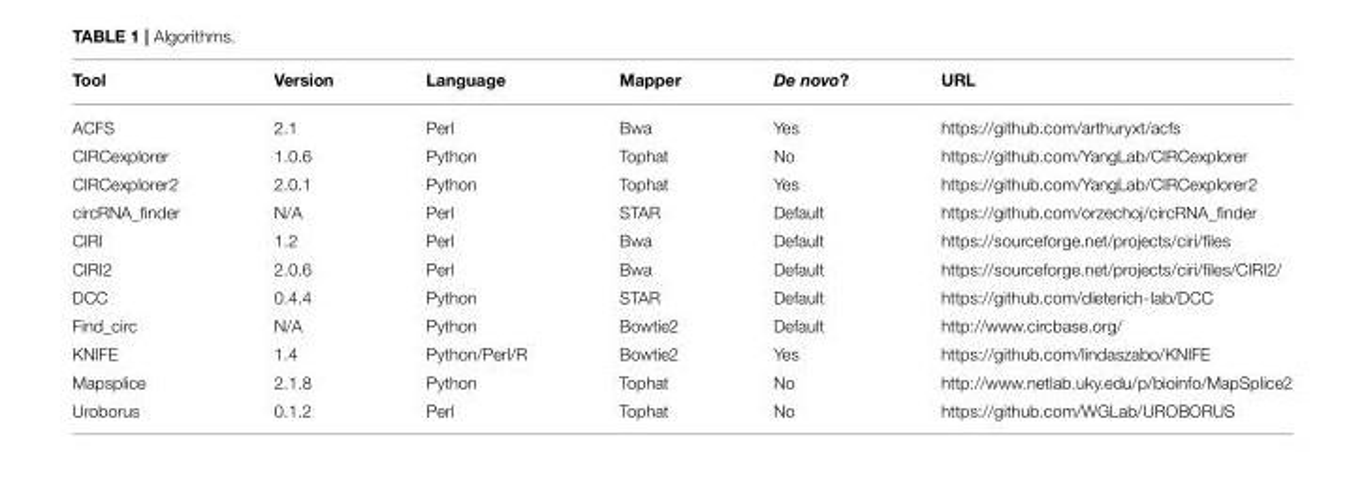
<table><thead><tr><td>Tool</td><td>Version</td><td>Language</td><td>Mapper</td><td>De novo?</td><td>URL</td></tr></thead><tbody><tr><td>ACFS</td><td>2.1</td><td>Perl</td><td>Bwa</td><td>Yes</td><td>https://github.com/arthuryxt/acfs</td></tr><tr><td>CIRCexplorer</td><td>1.0.6</td><td>Python</td><td>Tophat</td><td>No</td><td>https://github.com/YangLab/CIRCexplorer</td></tr><tr><td>CIRCexplorer2</td><td>2.0.1</td><td>Python</td><td>Tophat</td><td>Yes</td><td>https://github.com/YangLab/CIRCexplorer2</td></tr><tr><td>circRNA_finder</td><td>N/A</td><td>Perl</td><td>STAR</td><td>Default</td><td>https://github.com/orzechoj/circRNA_finder</td></tr><tr><td>CIRI</td><td>1.2</td><td>Perl</td><td>Bwa</td><td>Default</td><td>https://sourceforge.net/projects/ciri/files</td></tr><tr><td>CIRI2</td><td>2.0.6</td><td>Perl</td><td>Bwa</td><td>Default</td><td>https://sourceforge.net/projects/ciri/files/CIRI2/</td></tr><tr><td>DCC</td><td>0.4.4</td><td>Python</td><td>STAR</td><td>Default</td><td>https://github.com/dieterich-lab/DCC</td></tr><tr><td>Find_circ</td><td>N/A</td><td>Python</td><td>Bowtie2</td><td>Default</td><td>http://www.circbase.org/</td></tr><tr><td>KNIFE</td><td>1.4</td><td>Python/Perl/R</td><td>Bowtie2</td><td>Yes</td><td>https://github.com/lindaszabo/KNIFE</td></tr><tr><td>Mapsplice</td><td>2.1.8</td><td>Python</td><td>Tophat</td><td>No</td><td>http://www.netlab.uky.edu/p/bioinfo/MapSplice2</td></tr><tr><td>Uroborus</td><td>0.1.2</td><td>Perl</td><td>Tophat</td><td>No</td><td>https://github.com/WGLab/UROBORUS</td></tr></tbody></table>